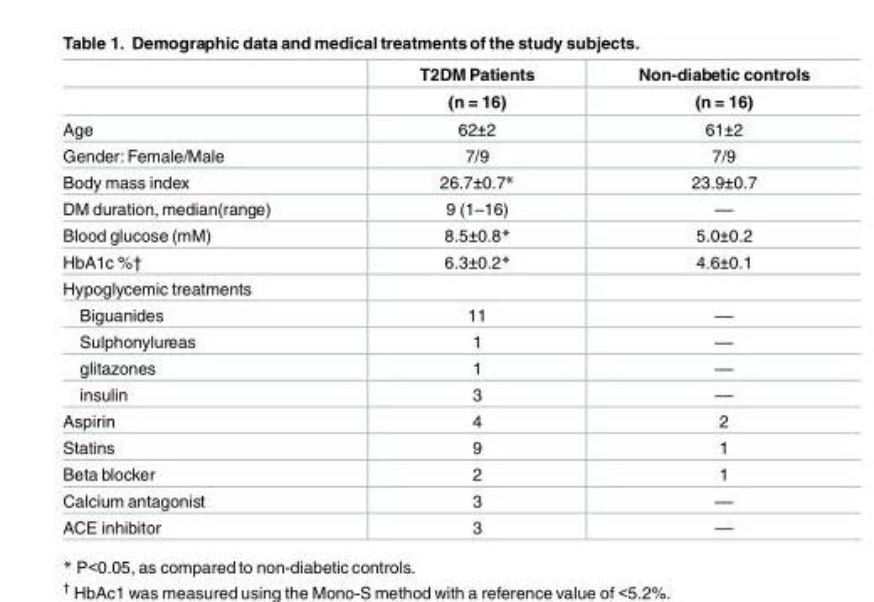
<table><thead><tr><td rowspan="2"></td><td rowspan="2">T2DM Patients (n = 16)</td><td rowspan="2">Non-diabetic controls (n = 16)</td></tr><tr></tr></thead><tbody><tr><td>Age</td><td>62±2</td><td>61±2</td></tr><tr><td>Gender:Female/Male</td><td>7/9</td><td>7/9</td></tr><tr><td>Body mass index</td><td>26.7±0.7*</td><td>23.9±0.7</td></tr><tr><td>DM duration, median(range)</td><td>9 (1–16)</td><td>––</td></tr><tr><td>Blood glucose (mM)</td><td>8.5±0.8*</td><td>5.0±0.2</td></tr><tr><td>HbA1c %†</td><td>6.3±0.2*</td><td>4.6±0.1</td></tr><tr><td colspan="3">Hypoglycemic treatments</td></tr><tr><td>Biguanides</td><td>11</td><td>––</td></tr><tr><td>Sulphonylureas</td><td>1</td><td>––</td></tr><tr><td>glitazones</td><td>1</td><td>––</td></tr><tr><td>insulin</td><td>3</td><td>––</td></tr><tr><td>Aspirin</td><td>4</td><td>2</td></tr><tr><td>Statins</td><td>9</td><td>1</td></tr><tr><td>Beta blocker</td><td>2</td><td>1</td></tr><tr><td>Calcium antagonist</td><td>3</td><td>––</td></tr><tr><td>ACE inhibitor</td><td>3</td><td>––</td></tr></tbody></table>